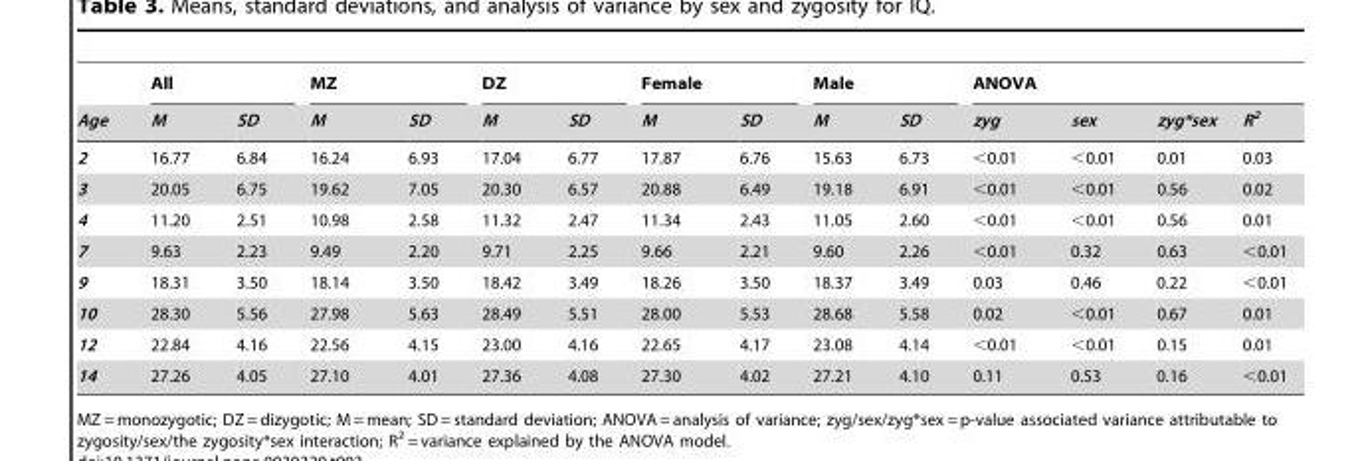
<table><thead><tr><td rowspan="2">Age</td><td colspan="2">All</td><td colspan="2">MZ</td><td colspan="2">DZ</td><td colspan="2">Female</td><td colspan="2">Male</td><td colspan="4">ANOVA</td></tr><tr><td>M</td><td>SD</td><td>M</td><td>SD</td><td>M</td><td>SD</td><td>M</td><td>SD</td><td>M</td><td>SD</td><td>zyg</td><td>sex</td><td>zyg*sex</td><td>R<sup>2</sup></td></tr></thead><tbody><tr><td>2</td><td>16.77</td><td>6.84</td><td>16.24</td><td>6.93</td><td>17.04</td><td>6.77</td><td>17.87</td><td>6.76</td><td>15.63</td><td>6.73</td><td>&lt;0.01</td><td>&lt;0.01</td><td>0.01</td><td>0.03</td></tr><tr><td>3</td><td>20.05</td><td>6.75</td><td>19.62</td><td>7.05</td><td>20.30</td><td>6.57</td><td>20.88</td><td>6.49</td><td>19.18</td><td>6.91</td><td>&lt;0.01</td><td>&lt;0.01</td><td>0.56</td><td>0.02</td></tr><tr><td>4</td><td>11.20</td><td>2.51</td><td>10.98</td><td>2.58</td><td>11.32</td><td>2.47</td><td>11.34</td><td>2.43</td><td>11.05</td><td>2.60</td><td>&lt;0.01</td><td>&lt;0.01</td><td>0.56</td><td>0.01</td></tr><tr><td>7</td><td>9.63</td><td>2.23</td><td>9.49</td><td>2.20</td><td>9.71</td><td>2.25</td><td>9.66</td><td>2.21</td><td>9.60</td><td>2.26</td><td>&lt;0.01</td><td>0.32</td><td>0.63</td><td>&lt;0.01</td></tr><tr><td>9</td><td>18.31</td><td>3.50</td><td>18.14</td><td>3.50</td><td>18.42</td><td>3.49</td><td>18.26</td><td>3.50</td><td>18.37</td><td>3.49</td><td>0.03</td><td>0.46</td><td>0.22</td><td>&lt;0.01</td></tr><tr><td>10</td><td>28.30</td><td>5.56</td><td>27.98</td><td>5.63</td><td>28.49</td><td>5.51</td><td>28.00</td><td>5.53</td><td>28.68</td><td>5.58</td><td>0.02</td><td>&lt;0.01</td><td>0.67</td><td>0.01</td></tr><tr><td>12</td><td>22.84</td><td>4.16</td><td>22.56</td><td>4.15</td><td>23.00</td><td>4.16</td><td>22.65</td><td>4.17</td><td>23.08</td><td>4.14</td><td>&lt;0.01</td><td>&lt;0.01</td><td>0.15</td><td>0.01</td></tr><tr><td>14</td><td>27.26</td><td>4.05</td><td>27.10</td><td>4.01</td><td>27.36</td><td>4.08</td><td>27.30</td><td>4.02</td><td>27.21</td><td>4.10</td><td>0.11</td><td>0.53</td><td>0.16</td><td>&lt;0.01</td></tr></tbody></table>